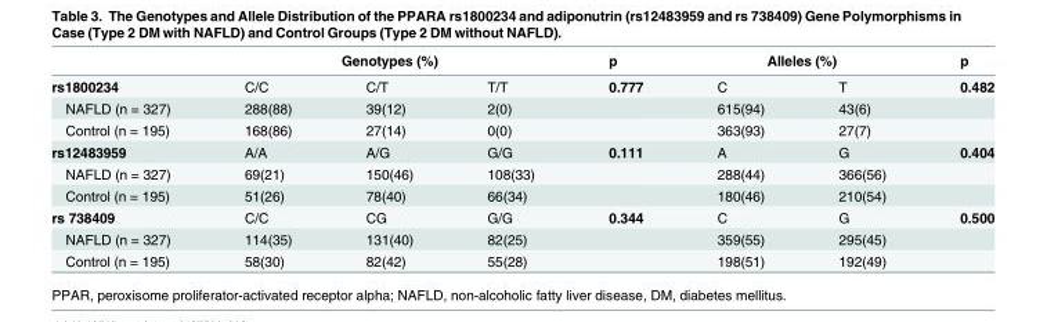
<table><thead><tr><td rowspan="2">rs1800234</td><td colspan="3">Genotypes (%)</td><td rowspan="2">p 0.777</td><td colspan="2">Alleles (%)</td><td rowspan="2">p 0.482</td></tr><tr><td>C/C</td><td>C/T</td><td>T/T</td><td>C</td><td>T</td></tr></thead><tbody><tr><td>NAFLD (n = 327)</td><td>288(88)</td><td>39(12)</td><td>2(0)</td><td></td><td>615(94)</td><td>43(6)</td><td></td></tr><tr><td>Control (n = 195)</td><td>168(86)</td><td>27(14)</td><td>0(0)</td><td></td><td>363(93)</td><td>27(7)</td><td></td></tr><tr><td>rs12483959</td><td>A/A</td><td>A/G</td><td>G/G</td><td>0.111</td><td>A</td><td>G</td><td>0.404</td></tr><tr><td>NAFLD (n = 327)</td><td>69(21)</td><td>150(46)</td><td>108(33)</td><td></td><td>288(44)</td><td>366(56)</td><td></td></tr><tr><td>Control (n = 195)</td><td>51(26)</td><td>78(40)</td><td>66(34)</td><td></td><td>180(46)</td><td>210(54)</td><td></td></tr><tr><td>rs 738409</td><td>C/C</td><td>CG</td><td>G/G</td><td>0.344</td><td>C</td><td>G</td><td>0.500</td></tr><tr><td>NAFLD (n = 327)</td><td>114(35)</td><td>131(40)</td><td>82(25)</td><td></td><td>359(55)</td><td>295(45)</td><td></td></tr><tr><td>Control (n = 195)</td><td>58(30)</td><td>82(42)</td><td>55(28)</td><td></td><td>198(51)</td><td>192(49)</td><td></td></tr></tbody></table>